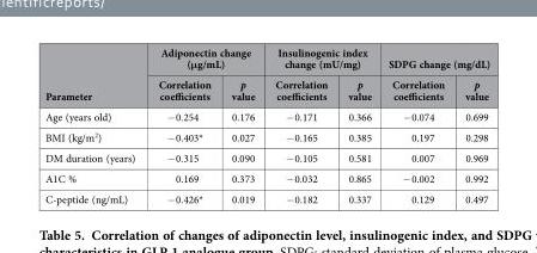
<table><thead><tr><td rowspan="2">Parameter</td><td colspan="2">Adiponectin change (μg/mL)</td><td colspan="2">Insulinogenic index change (mU/mg)</td><td colspan="2">SDPG change (mg/dL)</td></tr><tr><td>Correlation coefficients</td><td>p value</td><td>Correlation coefficients</td><td>p value</td><td>Correlation coefficients</td><td>p value</td></tr></thead><tbody><tr><td>Age (years old)</td><td>− 0.254</td><td>0.176</td><td>− 0.171</td><td>0.366</td><td>− 0.074</td><td>0.699</td></tr><tr><td>BMI (kg/m<sup>2</sup>)</td><td>− 0.403*</td><td>0.027</td><td>− 0.165</td><td>0.385</td><td>0.197</td><td>0.298</td></tr><tr><td>DM duration (years)</td><td>− 0.315</td><td>0.090</td><td>− 0.105</td><td>0.581</td><td>0.007</td><td>0.969</td></tr><tr><td>A1C %</td><td>0.169</td><td>0.373</td><td>− 0.032</td><td>0.865</td><td>− 0.002</td><td>0.992</td></tr><tr><td>C-peptide (ng/mL)</td><td>− 0.426*</td><td>0.019</td><td>− 0.182</td><td>0.337</td><td>0.129</td><td>0.497</td></tr></tbody></table>